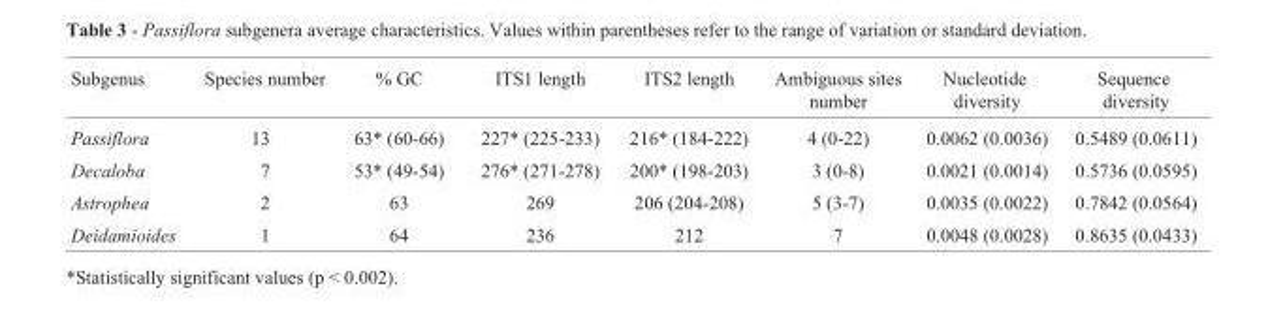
<table><thead><tr><td>Subgenus</td><td>Species number</td><td>% GC</td><td>ITS1 length</td><td>ITS2 length</td><td>Ambiguous sites number</td><td>Nucleotide diversity</td><td>Sequence diversity</td></tr></thead><tbody><tr><td>Passiflora</td><td>13</td><td>63* (60-66)</td><td>227* (225-233)</td><td>216* (184-222)</td><td>4 (0-22)</td><td>0.0062 (0.0036)</td><td>0.5489 (0.0611)</td></tr><tr><td>Decaloba</td><td>7</td><td>53* (49-54)</td><td>276* (271-278)</td><td>200* (198-203)</td><td>3 (0-8)</td><td>0.0021 (0.0014)</td><td>0.5736 (0.0595)</td></tr><tr><td>Astrophea</td><td>2</td><td>63</td><td>269</td><td>206 (204-208)</td><td>5 (3-7)</td><td>0.0035 (0.0022)</td><td>0.7842 (0.0564)</td></tr><tr><td>Deidamioides</td><td>1</td><td>64</td><td>236</td><td>212</td><td>7</td><td>0.0048 (0.0028)</td><td>0.8635 (0.0433)</td></tr></tbody></table>